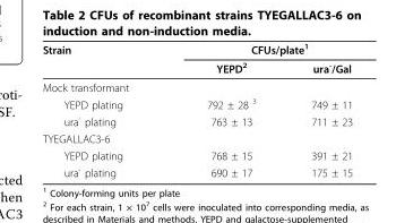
<table><thead><tr><td rowspan="2">Strain</td><td colspan="2">CFUs/plate<sup>1</sup></td></tr><tr><td>YEPD<sup>2</sup></td><td>ura<sup>-</sup>/Gal</td></tr></thead><tbody><tr><td colspan="3">Mock transformant</td></tr><tr><td>YEPD plating</td><td>792 ± 28 <sup>3</sup></td><td>749 ± 11</td></tr><tr><td>ura<sup>-</sup> plating</td><td>763 ± 13</td><td>711 ± 23</td></tr><tr><td colspan="3">TYEGALLAC3-6</td></tr><tr><td>YEPD plating</td><td>768 ± 15</td><td>391 ± 21</td></tr><tr><td>ura<sup>-</sup> plating</td><td>690 ± 17</td><td>175 ± 15</td></tr></tbody></table>